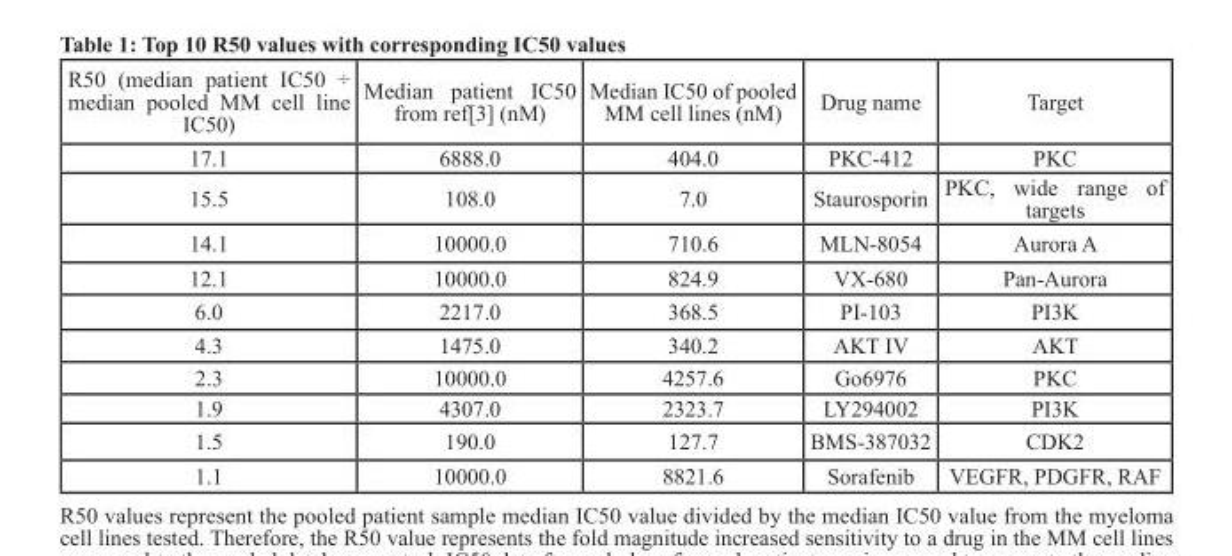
<table><thead><tr><td>R50 (median patient IC50 ÷ median pooled MM cell line IC50)</td><td>Median patient IC50 from ref[3] (nM)</td><td>Median IC50 of pooled MM cell lines (nM)</td><td>Drug name</td><td>Target</td></tr></thead><tbody><tr><td>17.1</td><td>6888.0</td><td>404.0</td><td>PKC-412</td><td>PKC</td></tr><tr><td>15.5</td><td>108.0</td><td>7.0</td><td>Staurosporin</td><td>PKC, wide range of targets</td></tr><tr><td>14.1</td><td>10000.0</td><td>710.6</td><td>MLN-8054</td><td>Aurora A</td></tr><tr><td>12.1</td><td>10000.0</td><td>824.9</td><td>VX-680</td><td>Pan-Aurora</td></tr><tr><td>6.0</td><td>2217.0</td><td>368.5</td><td>PI-103</td><td>PI3K</td></tr><tr><td>4.3</td><td>1475.0</td><td>340.2</td><td>AKT IV</td><td>AKT</td></tr><tr><td>2.3</td><td>10000.0</td><td>4257.6</td><td>Go6976</td><td>PKC</td></tr><tr><td>1.9</td><td>4307.0</td><td>2323.7</td><td>LY294002</td><td>PI3K</td></tr><tr><td>1.5</td><td>190.0</td><td>127.7</td><td>BMS-387032</td><td>CDK2</td></tr><tr><td>1.1</td><td>10000.0</td><td>8821.6</td><td>Sorafenib</td><td>VEGFR, PDGFR, RAF</td></tr></tbody></table>